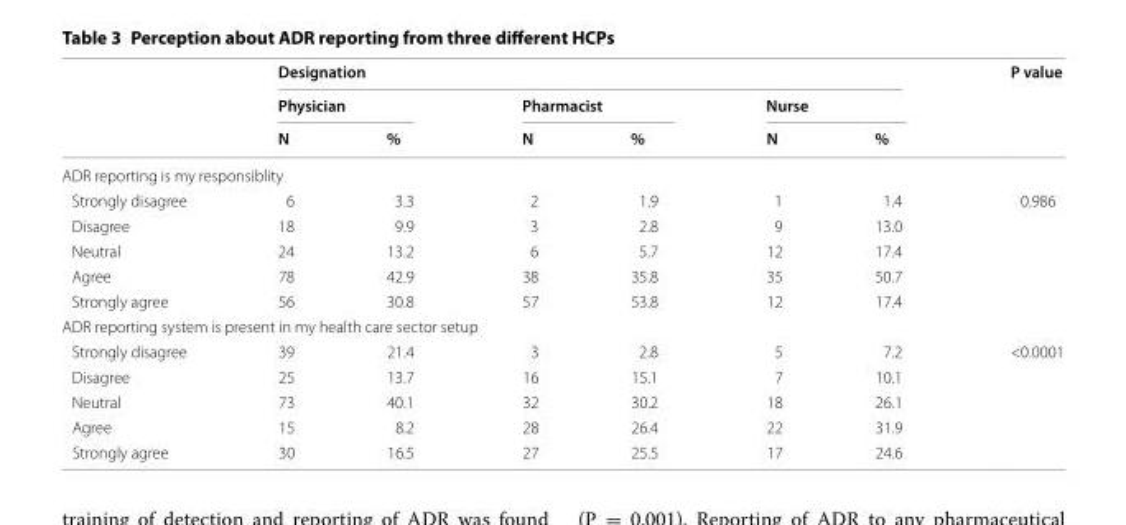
<table><thead><tr><td rowspan="3"></td><td colspan="6">Designation</td><td rowspan="3">P value</td></tr><tr><td colspan="2">Physician</td><td colspan="2">Pharmacist</td><td colspan="2">Nurse</td></tr><tr><td>N</td><td>%</td><td>N</td><td>%</td><td>N</td><td>%</td></tr></thead><tbody><tr><td colspan="8">ADR reporting is my responsiblity</td></tr><tr><td>Strongly disagree</td><td>6</td><td>3.3</td><td>2</td><td>1.9</td><td>1</td><td>1.4</td><td>0.986</td></tr><tr><td>Disagree</td><td>18</td><td>9.9</td><td>3</td><td>2.8</td><td>9</td><td>13.0</td><td></td></tr><tr><td>Neutral</td><td>24</td><td>13.2</td><td>6</td><td>5.7</td><td>12</td><td>17.4</td><td></td></tr><tr><td>Agree</td><td>78</td><td>42.9</td><td>38</td><td>35.8</td><td>35</td><td>50.7</td><td></td></tr><tr><td>Strongly agree</td><td>56</td><td>30.8</td><td>57</td><td>53.8</td><td>12</td><td>17.4</td><td></td></tr><tr><td colspan="8">ADR reporting system is present in my health care sector setup</td></tr><tr><td>Strongly disagree</td><td>39</td><td>21.4</td><td>3</td><td>2.8</td><td>5</td><td>7.2</td><td>&lt;0.0001</td></tr><tr><td>Disagree</td><td>25</td><td>13.7</td><td>16</td><td>15.1</td><td>7</td><td>10.1</td><td></td></tr><tr><td>Neutral</td><td>73</td><td>40.1</td><td>32</td><td>30.2</td><td>18</td><td>26.1</td><td></td></tr><tr><td>Agree</td><td>15</td><td>8.2</td><td>28</td><td>26.4</td><td>22</td><td>31.9</td><td></td></tr><tr><td>Strongly agree</td><td>30</td><td>16.5</td><td>27</td><td>25.5</td><td>17</td><td>24.6</td><td></td></tr></tbody></table>